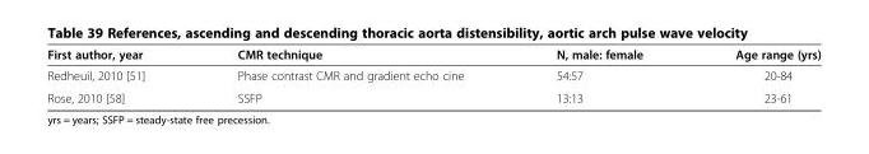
<table><thead><tr><td>First author, year</td><td>CMR technique</td><td>N, male: female</td><td>Age range (yrs)</td></tr></thead><tbody><tr><td>Redheuil, 2010 [51]</td><td>Phase contrast CMR and gradient echo cine</td><td>54:57</td><td>20-84</td></tr><tr><td>Rose, 2010 [58]</td><td>SSFP</td><td>13:13</td><td>23-61</td></tr></tbody></table>